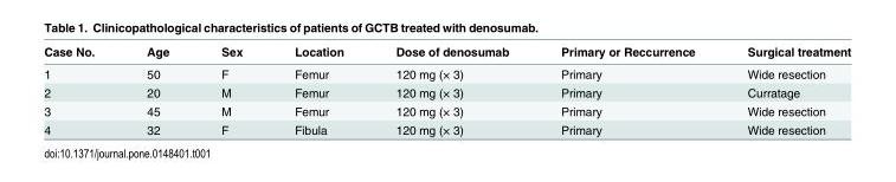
<table><thead><tr><td>Case No.</td><td>Age</td><td>Sex</td><td>Location</td><td>Dose of denosumab</td><td>Primary or Reccurrence</td><td>Surgical treatment</td></tr></thead><tbody><tr><td>1</td><td>50</td><td>F</td><td>Femur</td><td>120 mg (× 3)</td><td>Primary</td><td>Wide resection</td></tr><tr><td>2</td><td>20</td><td>M</td><td>Femur</td><td>120 mg (× 3)</td><td>Primary</td><td>Curratage</td></tr><tr><td>3</td><td>45</td><td>M</td><td>Femur</td><td>120 mg (× 3)</td><td>Primary</td><td>Wide resection</td></tr><tr><td>4</td><td>32</td><td>F</td><td>Fibula</td><td>120 mg (× 3)</td><td>Primary</td><td>Wide resection</td></tr></tbody></table>